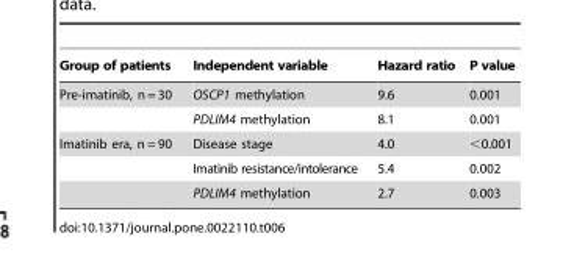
<table><thead><tr><td>Group of patients</td><td>Independent variable</td><td>Hazard ratio</td><td>P value</td></tr></thead><tbody><tr><td rowspan="2">Pre-imatinib, n = 30</td><td>OSCP1 methylation</td><td>9.6</td><td>0.001</td></tr><tr><td>PDLIM4 methylation</td><td>8.1</td><td>0.001</td></tr><tr><td rowspan="3">Imatinib era, n = 90</td><td>Disease stage</td><td>4.0</td><td>&lt;0.001</td></tr><tr><td>Imatinib resistance/intolerance</td><td>5.4</td><td>0.002</td></tr><tr><td>PDLIM4 methylation</td><td>2.7</td><td>0.003</td></tr></tbody></table>